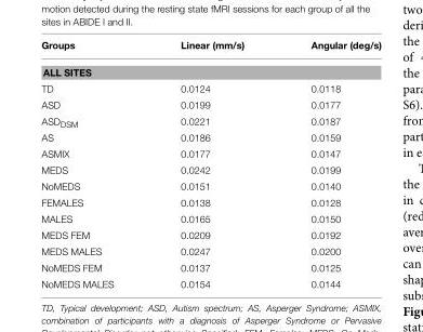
<table><thead><tr><td>Groups</td><td>Linear (mm/s)</td><td>Angular (deg/s)</td></tr></thead><tbody><tr><td colspan="3">ALL SITES</td></tr><tr><td>TD</td><td>0.0124</td><td>0.0118</td></tr><tr><td>ASD</td><td>0.0199</td><td>0.0177</td></tr><tr><td>ASD<sub>DSM</sub></td><td>0.0221</td><td>0.0187</td></tr><tr><td>AS</td><td>0.0186</td><td>0.0159</td></tr><tr><td>ASMIX</td><td>0.0177</td><td>0.0147</td></tr><tr><td>MEDS</td><td>0.0242</td><td>0.0199</td></tr><tr><td>NoMEDS</td><td>0.0151</td><td>0.0140</td></tr><tr><td>FEMALES</td><td>0.0138</td><td>0.0128</td></tr><tr><td>MALES</td><td>0.0165</td><td>0.0150</td></tr><tr><td>MEDS FEM</td><td>0.0209</td><td>0.0192</td></tr><tr><td>MEDS MALES</td><td>0.0247</td><td>0.0200</td></tr><tr><td>NoMEDS FEM</td><td>0.0137</td><td>0.0125</td></tr><tr><td>NoMEDS MALES</td><td>0.0154</td><td>0.0144</td></tr></tbody></table>